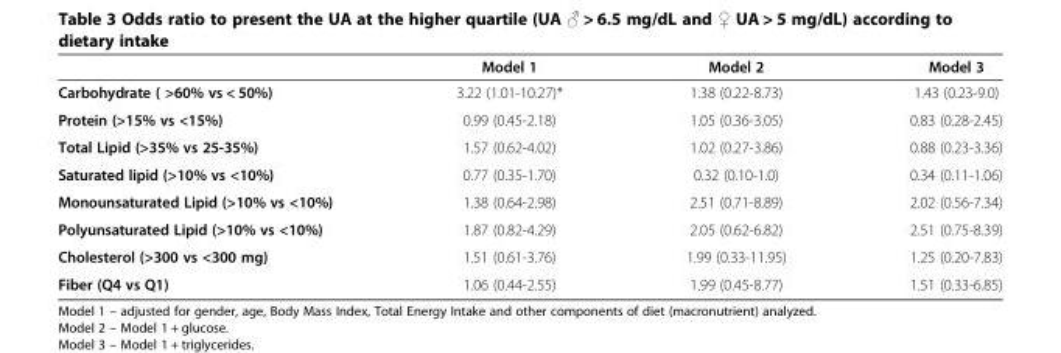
<table><thead><tr><td></td><td>Model 1</td><td>Model 2</td><td>Model 3</td></tr></thead><tbody><tr><td>Carbohydrate ( &gt;60% vs &lt; 50%)</td><td>3.22 (1.01-10.27)*</td><td>1.38 (0.22-8.73)</td><td>1.43 (0.23-9.0)</td></tr><tr><td>Protein (&gt;15% vs &lt;15%)</td><td>0.99 (0.45-2.18)</td><td>1.05 (0.36-3.05)</td><td>0.83 (0.28-2.45)</td></tr><tr><td>Total Lipid (&gt;35% vs 25-35%)</td><td>1.57 (0.62-4.02)</td><td>1.02 (0.27-3.86)</td><td>0.88 (0.23-3.36)</td></tr><tr><td>Saturated lipid (&gt;10% vs &lt;10%)</td><td>0.77 (0.35-1.70)</td><td>0.32 (0.10-1.0)</td><td>0.34 (0.11-1.06)</td></tr><tr><td>Monounsaturated Lipid (&gt;10% vs &lt;10%)</td><td>1.38 (0.64-2.98)</td><td>2.51 (0.71-8.89)</td><td>2.02 (0.56-7.34)</td></tr><tr><td>Polyunsaturated Lipid (&gt;10% vs &lt;10%)</td><td>1.87 (0.82-4.29)</td><td>2.05 (0.62-6.82)</td><td>2.51 (0.75-8.39)</td></tr><tr><td>Cholesterol (&gt;300 vs &lt;300 mg)</td><td>1.51 (0.61-3.76)</td><td>1.99 (0.33-11.95)</td><td>1.25 (0.20-7.83)</td></tr><tr><td>Fiber (Q4 vs Q1)</td><td>1.06 (0.44-2.55)</td><td>1.99 (0.45-8.77)</td><td>1.51 (0.33-6.85)</td></tr></tbody></table>